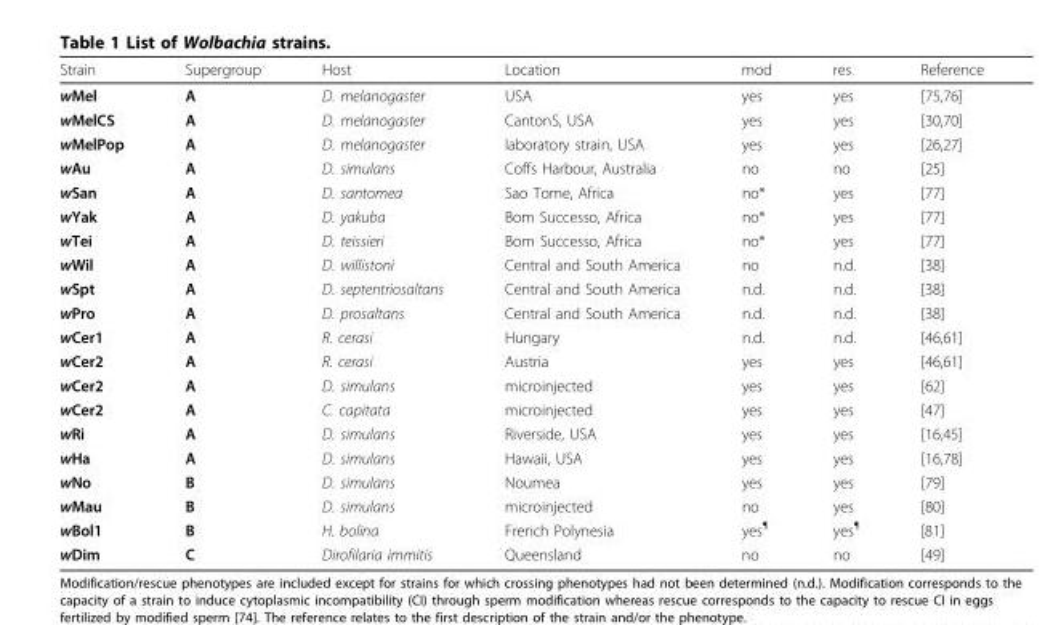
<table><thead><tr><td>Strain</td><td>Supergroup</td><td>Host</td><td>Location</td><td>mod</td><td>res</td><td>Reference</td></tr></thead><tbody><tr><td>wMel</td><td>A</td><td>D. melanogaster</td><td>USA</td><td>yes</td><td>yes</td><td>[75,76]</td></tr><tr><td>wMelCS</td><td>A</td><td>D. melanogaster</td><td>CantonS, USA</td><td>yes</td><td>yes</td><td>[30,70]</td></tr><tr><td>wMelPop</td><td>A</td><td>D. melanogaster</td><td>laboratory strain, USA</td><td>yes</td><td>yes</td><td>[26,27]</td></tr><tr><td>wAu</td><td>A</td><td>D. simulans</td><td>Coffs Harbour, Australia</td><td>no</td><td>no</td><td>[25]</td></tr><tr><td>wSan</td><td>A</td><td>D. santomea</td><td>Sao Tome, Africa</td><td>no*</td><td>yes</td><td>[77]</td></tr><tr><td>wYak</td><td>A</td><td>D. yakuba</td><td>Bom Successo, Africa</td><td>no*</td><td>yes</td><td>[77]</td></tr><tr><td>wTei</td><td>A</td><td>D. teissieri</td><td>Bom Successo, Africa</td><td>no*</td><td>yes</td><td>[77]</td></tr><tr><td>wWil</td><td>A</td><td>D. willistoni</td><td>Central and South America</td><td>no</td><td>n.d.</td><td>[38]</td></tr><tr><td>wSpt</td><td>A</td><td>D. septentriosaltans</td><td>Central and South America</td><td>n.d.</td><td>n.d.</td><td>[38]</td></tr><tr><td>wPro</td><td>A</td><td>D. prosaltans</td><td>Central and South America</td><td>n.d.</td><td>n.d.</td><td>[38]</td></tr><tr><td>wCer1</td><td>A</td><td>R. cerasi</td><td>Hungary</td><td>n.d.</td><td>n.d.</td><td>[46,61]</td></tr><tr><td>wCer2</td><td>A</td><td>R. cerasi</td><td>Austria</td><td>yes</td><td>yes</td><td>[46,61]</td></tr><tr><td>wCer2</td><td>A</td><td>D. simulans</td><td>microinjected</td><td>yes</td><td>yes</td><td>[62]</td></tr><tr><td>wCer2</td><td>A</td><td>C. capitata</td><td>microinjected</td><td>yes</td><td>yes</td><td>[47]</td></tr><tr><td>wRi</td><td>A</td><td>D. simulans</td><td>Riverside, USA</td><td>yes</td><td>yes</td><td>[16,45]</td></tr><tr><td>wHa</td><td>A</td><td>D. simulans</td><td>Hawaii, USA</td><td>yes</td><td>yes</td><td>[16,78]</td></tr><tr><td>wNo</td><td>B</td><td>D. simulans</td><td>Noumea</td><td>yes</td><td>yes</td><td>[79]</td></tr><tr><td>wMau</td><td>B</td><td>D. simulans</td><td>microinjected</td><td>no</td><td>yes</td><td>[80]</td></tr><tr><td>wBol1</td><td>B</td><td>H. bolina</td><td>French Polynesia</td><td>yes<sup>¶</sup></td><td>yes<sup>¶</sup></td><td>[81]</td></tr><tr><td>wDim</td><td>C</td><td>Dirofilaria immitis</td><td>Queensland</td><td>no</td><td>no</td><td>[49]</td></tr></tbody></table>